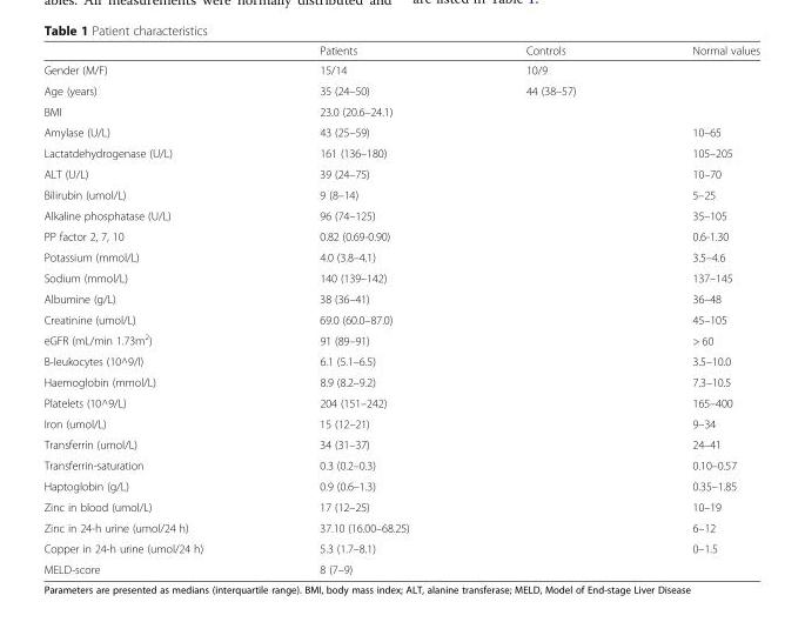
<table><thead><tr><td></td><td>Patients</td><td>Controls</td><td>Normal values</td></tr></thead><tbody><tr><td>Gender (M/F)</td><td>15/14</td><td>10/9</td><td></td></tr><tr><td>Age (years)</td><td>35 (24–50)</td><td>44 (38–57)</td><td></td></tr><tr><td>BMI</td><td>23.0 (20.6–24.1)</td><td></td><td></td></tr><tr><td>Amylase (U/L)</td><td>43 (25–59)</td><td></td><td>10–65</td></tr><tr><td>Lactatdehydrogenase (U/L)</td><td>161 (136–180)</td><td></td><td>105–205</td></tr><tr><td>ALT (U/L)</td><td>39 (24–75)</td><td></td><td>10–70</td></tr><tr><td>Bilirubin (umol/L)</td><td>9 (8–14)</td><td></td><td>5–25</td></tr><tr><td>Alkaline phosphatase (U/L)</td><td>96 (74–125)</td><td></td><td>35–105</td></tr><tr><td>PP factor 2, 7, 10</td><td>0.82 (0.69-0.90)</td><td></td><td>0.6-1.30</td></tr><tr><td>Potassium (mmol/L)</td><td>4.0 (3.8–4.1)</td><td></td><td>3.5–4.6</td></tr><tr><td>Sodium (mmol/L)</td><td>140 (139–142)</td><td></td><td>137–145</td></tr><tr><td>Albumine (g/L)</td><td>38 (36–41)</td><td></td><td>36–48</td></tr><tr><td>Creatinine (umol/L)</td><td>69.0 (60.0–87.0)</td><td></td><td>45–105</td></tr><tr><td>eGFR (mL/min 1.73m<sup>2</sup>)</td><td>91 (89–91)</td><td></td><td>&gt; 60</td></tr><tr><td>B-leukocytes (10^9/l)</td><td>6.1 (5.1–6.5)</td><td></td><td>3.5–10.0</td></tr><tr><td>Haemoglobin (mmol/L)</td><td>8.9 (8.2–9.2)</td><td></td><td>7.3–10.5</td></tr><tr><td>Platelets (10^9/L)</td><td>204 (151–242)</td><td></td><td>165–400</td></tr><tr><td>Iron (umol/L)</td><td>15 (12–21)</td><td></td><td>9–34</td></tr><tr><td>Transferrin (umol/L)</td><td>34 (31–37)</td><td></td><td>24–41</td></tr><tr><td>Transferrin-saturation</td><td>0.3 (0.2–0.3)</td><td></td><td>0.10–0.57</td></tr><tr><td>Haptoglobin (g/L)</td><td>0.9 (0.6–1.3)</td><td></td><td>0.35–1.85</td></tr><tr><td>Zinc in blood (umol/L)</td><td>17 (12–25)</td><td></td><td>10–19</td></tr><tr><td>Zinc in 24-h urine (umol/24 h)</td><td>37.10 (16.00–68.25)</td><td></td><td>6–12</td></tr><tr><td>Copper in 24-h urine (umol/24 h)</td><td>5.3 (1.7–8.1)</td><td></td><td>0–1.5</td></tr><tr><td>MELD-score</td><td>8 (7–9)</td><td></td><td></td></tr></tbody></table>